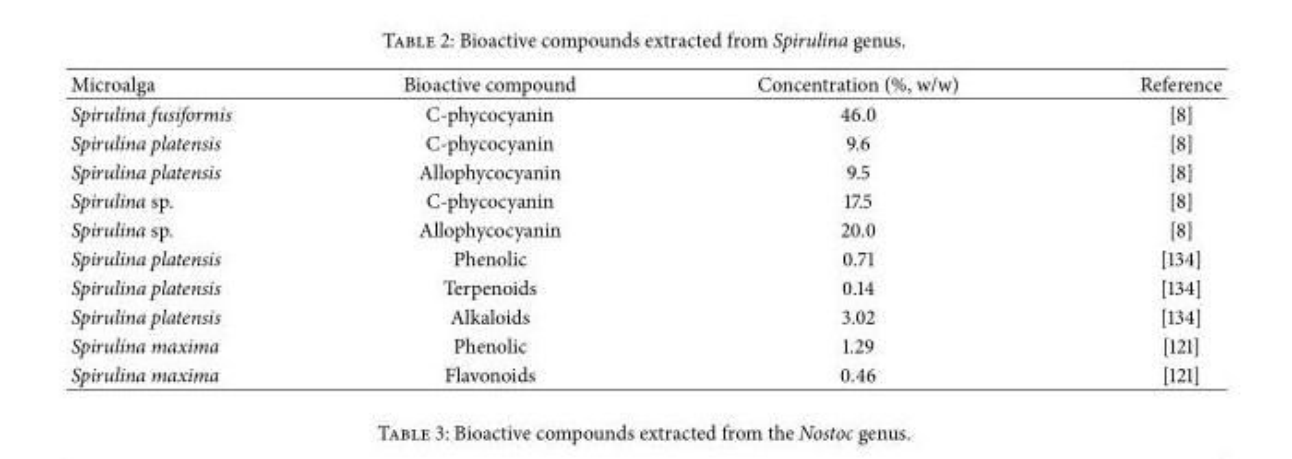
<table><tbody><tr><td>Microalga</td><td>Bioactive compound</td><td>Concentration (%, w/w)</td><td>Reference</td></tr><tr><td>Spirulina fusiformis</td><td>C-phycocyanin</td><td>46.0</td><td>[8]</td></tr><tr><td>Spirulina platensis</td><td>C-phycocyanin</td><td>9.6</td><td>[8]</td></tr><tr><td>Spirulina platensis</td><td>Allophycocyanin</td><td>9.5</td><td>[8]</td></tr><tr><td>Spirulina sp.</td><td>C-phycocyanin</td><td>17.5</td><td>[8]</td></tr><tr><td>Spirulina sp.</td><td>Allophycocyanin</td><td>20.0</td><td>[8]</td></tr><tr><td>Spirulina platensis</td><td>Phenolic</td><td>0.71</td><td>[134]</td></tr><tr><td>Spirulina platensis</td><td>Terpenoids</td><td>0.14</td><td>[134]</td></tr><tr><td>Spirulina platensis</td><td>Alkaloids</td><td>3.02</td><td>[134]</td></tr><tr><td>Spirulina maxima</td><td>Phenolic</td><td>1.29</td><td>[121]</td></tr><tr><td>Spirulina maxima</td><td>Flavonoids</td><td>0.46</td><td>[121]</td></tr></tbody></table>